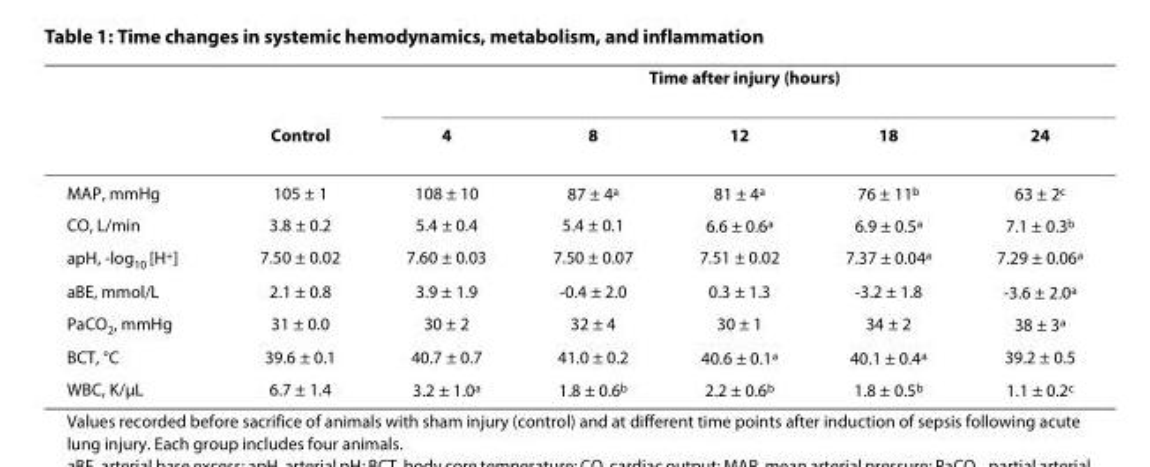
<table><thead><tr><td rowspan="2"></td><td rowspan="2">Control</td><td colspan="5">Time after injury (hours)</td></tr><tr><td>4</td><td>8</td><td>12</td><td>18</td><td>24</td></tr></thead><tbody><tr><td>MAP, mmHg</td><td>105 ± 1</td><td>108 ± 10</td><td>87 ± 4<sup>a</sup></td><td>81 ± 4<sup>a</sup></td><td>76 ± 11<sup>b</sup></td><td>63 ± 2<sup>c</sup></td></tr><tr><td>CO, L/min</td><td>3.8 ± 0.2</td><td>5.4 ± 0.4</td><td>5.4 ± 0.1</td><td>6.6 ± 0.6<sup>a</sup></td><td>6.9 ± 0.5<sup>a</sup></td><td>7.1 ± 0.3<sup>b</sup></td></tr><tr><td>apH, -log<sub>10</sub> [H<sup>+</sup>]</td><td>7.50 ± 0.02</td><td>7.60 ± 0.03</td><td>7.50 ± 0.07</td><td>7.51 ± 0.02</td><td>7.37 ± 0.04<sup>a</sup></td><td>7.29 ± 0.06<sup>a</sup></td></tr><tr><td>aBE, mmol/L</td><td>2.1 ± 0.8</td><td>3.9 ± 1.9</td><td>-0.4 ± 2.0</td><td>0.3 ± 1.3</td><td>-3.2 ± 1.8</td><td>-3.6 ± 2.0<sup>a</sup></td></tr><tr><td>PaCO<sub>2</sub>, mmHg</td><td>31 ± 0.0</td><td>30 ± 2</td><td>32 ± 4</td><td>30 ± 1</td><td>34 ± 2</td><td>38 ± 3<sup>a</sup></td></tr><tr><td>BCT, °C</td><td>39.6 ± 0.1</td><td>40.7 ± 0.7</td><td>41.0 ± 0.2</td><td>40.6 ± 0.1<sup>a</sup></td><td>40.1 ± 0.4<sup>a</sup></td><td>39.2 ± 0.5</td></tr><tr><td>WBC, K/μL</td><td>6.7 ± 1.4</td><td>3.2 ± 1.0<sup>a</sup></td><td>1.8 ± 0.6<sup>b</sup></td><td>2.2 ± 0.6<sup>b</sup></td><td>1.8 ± 0.5<sup>b</sup></td><td>1.1 ± 0.2<sup>c</sup></td></tr></tbody></table>